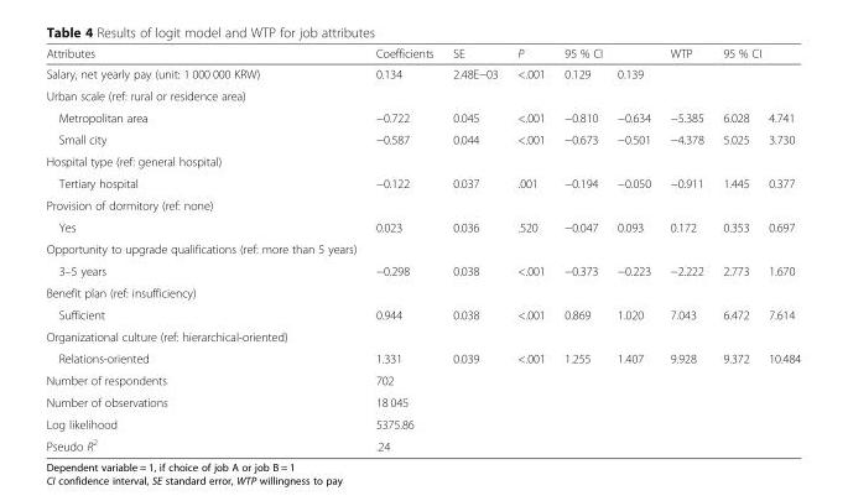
<table><thead><tr><td rowspan="2">Attributes Salary, net yearly pay (unit: 1 000 000 KRW)</td><td rowspan="2">Coefficients 0.134</td><td rowspan="2">SE 2.48E−03</td><td rowspan="2">P &lt;.001</td><td colspan="2">95 % CI</td><td rowspan="2">WTP</td><td colspan="2">95 % CI</td></tr><tr><td>0.129</td><td>0.139</td><td></td><td></td></tr></thead><tbody><tr><td colspan="9">Urban scale (ref: rural or residence area)</td></tr><tr><td>Metropolitan area</td><td>−0.722</td><td>0.045</td><td>&lt;.001</td><td>−0.810</td><td>−0.634</td><td>−5.385</td><td>6.028</td><td>4.741</td></tr><tr><td>Small city</td><td>−0.587</td><td>0.044</td><td>&lt;.001</td><td>−0.673</td><td>−0.501</td><td>−4.378</td><td>5.025</td><td>3.730</td></tr><tr><td colspan="9">Hospital type (ref: general hospital)</td></tr><tr><td>Tertiary hospital</td><td>−0.122</td><td>0.037</td><td>.001</td><td>−0.194</td><td>−0.050</td><td>−0.911</td><td>1.445</td><td>0.377</td></tr><tr><td colspan="9">Provision of dormitory (ref: none)</td></tr><tr><td>Yes</td><td>0.023</td><td>0.036</td><td>.520</td><td>−0.047</td><td>0.093</td><td>0.172</td><td>0.353</td><td>0.697</td></tr><tr><td colspan="9">Opportunity to upgrade qualifications (ref: more than 5 years)</td></tr><tr><td>3–5 years</td><td>−0.298</td><td>0.038</td><td>&lt;.001</td><td>−0.373</td><td>−0.223</td><td>−2.222</td><td>2.773</td><td>1.670</td></tr><tr><td colspan="9">Benefit plan (ref: insufficiency)</td></tr><tr><td>Sufficient</td><td>0.944</td><td>0.038</td><td>&lt;.001</td><td>0.869</td><td>1.020</td><td>7.043</td><td>6.472</td><td>7.614</td></tr><tr><td colspan="9">Organizational culture (ref: hierarchical-oriented)</td></tr><tr><td>Relations-oriented</td><td>1.331</td><td>0.039</td><td>&lt;.001</td><td>1.255</td><td>1.407</td><td>9.928</td><td>9.372</td><td>10.484</td></tr><tr><td>Number of respondents</td><td>702</td><td></td><td></td><td></td><td></td><td></td><td></td><td></td></tr><tr><td>Number of observations</td><td>18 045</td><td></td><td></td><td></td><td></td><td></td><td></td><td></td></tr><tr><td>Log likelihood</td><td>5375.86</td><td></td><td></td><td></td><td></td><td></td><td></td><td></td></tr><tr><td>Pseudo R<sup>2</sup></td><td>.24</td><td></td><td></td><td></td><td></td><td></td><td></td><td></td></tr></tbody></table>